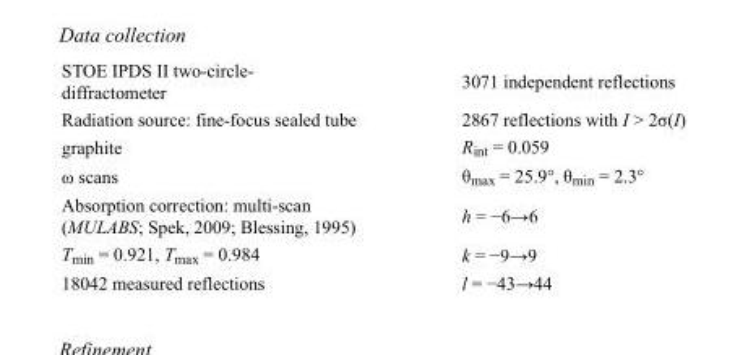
<table><tbody><tr><td>STOE IPDS II two-circle- diffractometer</td><td>3071 independent reflections</td></tr><tr><td>Radiation source: fine-focus sealed tube</td><td>2867 reflections with I &gt; 2σ(I)</td></tr><tr><td>graphite</td><td>R<sub>int</sub> = 0.059</td></tr><tr><td>ω scans</td><td>θ<sub>max</sub> = 25.9°, θ<sub>min</sub> = 2.3°</td></tr><tr><td>Absorption correction: multi-scan (MULABS; Spek, 2009; Blessing, 1995)</td><td>h = −6→6</td></tr><tr><td>T<sub>min</sub> = 0.921, T<sub>max</sub> = 0.984</td><td>k = −9→9</td></tr><tr><td>18042 measured reflections</td><td>l = −43→44</td></tr></tbody></table>